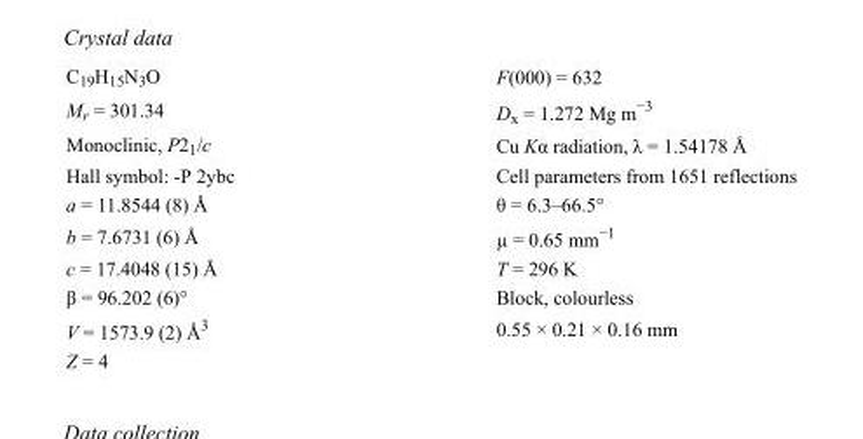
<table><tbody><tr><td>C<sub>19</sub>H<sub>15</sub>N<sub>3</sub>O</td><td>F(000) = 632</td></tr><tr><td>M<sub>r</sub> = 301.34</td><td>D<sub>x</sub> = 1.272 Mg m<sup>−3</sup></td></tr><tr><td>Monoclinic, P2<sub>1</sub>/c</td><td>Cu Kα radiation, λ = 1.54178 Å</td></tr><tr><td>Hall symbol: -P 2ybc</td><td>Cell parameters from 1651 reflections</td></tr><tr><td>a = 11.8544 (8) Å</td><td>θ = 6.3–66.5°</td></tr><tr><td>b = 7.6731 (6) Å</td><td>µ = 0.65 mm<sup>−1</sup></td></tr><tr><td>c = 17.4048 (15) Å</td><td>T = 296 K</td></tr><tr><td>β = 96.202 (6)°</td><td>Block, colourless</td></tr><tr><td>V = 1573.9 (2) Å<sup>3</sup></td><td>0.55 × 0.21 × 0.16 mm</td></tr><tr><td>Z = 4</td><td></td></tr></tbody></table>